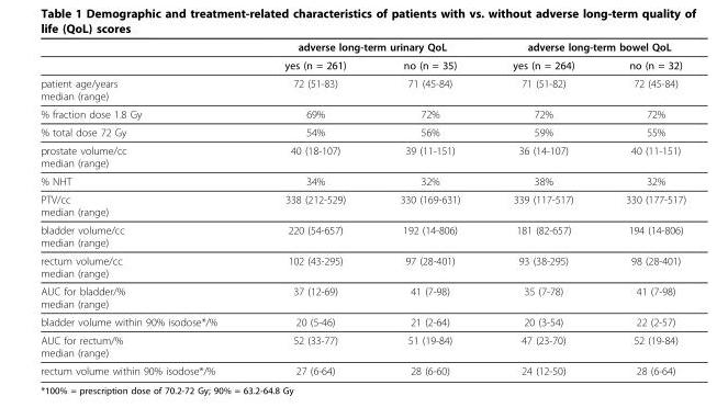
<table><thead><tr><td rowspan="2"></td><td colspan="2">adverse long-term urinary QoL</td><td colspan="2">adverse long-term bowel QoL</td></tr><tr><td>yes (n = 261)</td><td>no (n = 35)</td><td>yes (n = 264)</td><td>no (n = 32)</td></tr></thead><tbody><tr><td>patient age/years median (range)</td><td>72 (51-83)</td><td>71 (45-84)</td><td>71 (51-82)</td><td>72 (45-84)</td></tr><tr><td>% fraction dose 1.8 Gy</td><td>69%</td><td>72%</td><td>72%</td><td>72%</td></tr><tr><td>% total dose 72 Gy</td><td>54%</td><td>56%</td><td>59%</td><td>55%</td></tr><tr><td>prostate volume/cc median (range)</td><td>40 (18-107)</td><td>39 (11-151)</td><td>36 (14-107)</td><td>40 (11-151)</td></tr><tr><td>% NHT</td><td>34%</td><td>32%</td><td>38%</td><td>32%</td></tr><tr><td>PTV/cc median (range)</td><td>338 (212-529)</td><td>330 (169-631)</td><td>339 (117-517)</td><td>330 (177-517)</td></tr><tr><td>bladder volume/cc median (range)</td><td>220 (54-657)</td><td>192 (14-806)</td><td>181 (82-657)</td><td>194 (14-806)</td></tr><tr><td>rectum volume/cc median (range)</td><td>102 (43-295)</td><td>97 (28-401)</td><td>93 (38-295)</td><td>98 (28-401)</td></tr><tr><td>AUC for bladder/% median (range)</td><td>37 (12-69)</td><td>41 (7-98)</td><td>35 (7-78)</td><td>41 (7-98)</td></tr><tr><td>bladder volume within 90% isodose*/%</td><td>20 (5-46)</td><td>21 (2-64)</td><td>20 (3-54)</td><td>22 (2-57)</td></tr><tr><td>AUC for rectum/% median (range)</td><td>52 (33-77)</td><td>51 (19-84)</td><td>47 (23-70)</td><td>52 (19-84)</td></tr><tr><td>rectum volume within 90% isodose*/%</td><td>27 (6-64)</td><td>28 (6-60)</td><td>24 (12-50)</td><td>28 (6-64)</td></tr></tbody></table>